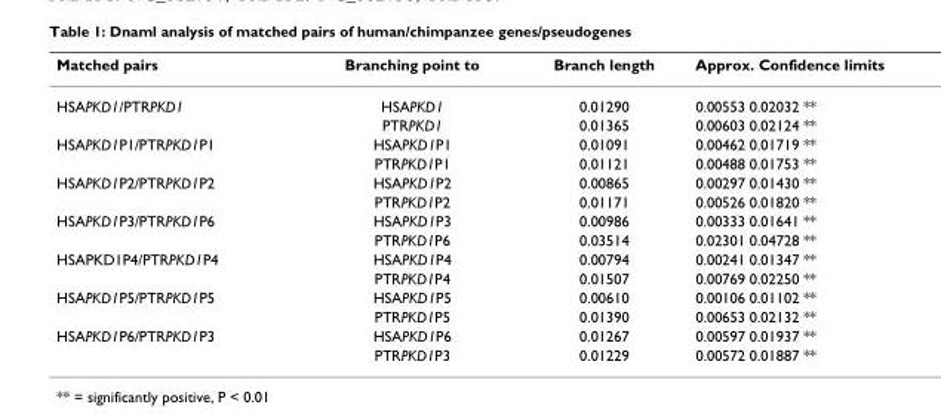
<table><thead><tr><td>Matched pairs</td><td>Branching point to</td><td>Branch length</td><td>Approx. Confidence limits</td></tr></thead><tbody><tr><td rowspan="2">HSAPKD1/PTRPKD1</td><td>HSAPKD1</td><td>0.01290</td><td>0.00553 0.02032 **</td></tr><tr><td>PTRPKD1</td><td>0.01365</td><td>0.00603 0.02124 **</td></tr><tr><td rowspan="2">HSAPKD1P1/PTRPKD1P1</td><td>HSAPKD1P1</td><td>0.01091</td><td>0.00462 0.01719 **</td></tr><tr><td>PTRPKD1P1</td><td>0.01121</td><td>0.00488 0.01753 **</td></tr><tr><td rowspan="2">HSAPKD1P2/PTRPKD1P2</td><td>HSAPKD1P2</td><td>0.00865</td><td>0.00297 0.01430 **</td></tr><tr><td>PTRPKD1P2</td><td>0.01171</td><td>0.00526 0.01820 **</td></tr><tr><td rowspan="2">HSAPKD1P3/PTRPKD1P6</td><td>HSAPKD1P3</td><td>0.00986</td><td>0.00333 0.01641 **</td></tr><tr><td>PTRPKD1P6</td><td>0.03514</td><td>0.02301 0.04728 **</td></tr><tr><td rowspan="2">HSAPKD1P4/PTRPKD1P4</td><td>HSAPKD1P4</td><td>0.00794</td><td>0.00241 0.01347 **</td></tr><tr><td>PTRPKD1P4</td><td>0.01507</td><td>0.00769 0.02250 **</td></tr><tr><td rowspan="2">HSAPKD1P5/PTRPKD1P5</td><td>HSAPKD1P5</td><td>0.00610</td><td>0.00106 0.01102 **</td></tr><tr><td>PTRPKD1P5</td><td>0.01390</td><td>0.00653 0.02132 **</td></tr><tr><td rowspan="2">HSAPKD1P6/PTRPKD1P3</td><td>HSAPKD1P6</td><td>0.01267</td><td>0.00597 0.01937 **</td></tr><tr><td>PTRPKD1P3</td><td>0.01229</td><td>0.00572 0.01887 **</td></tr></tbody></table>